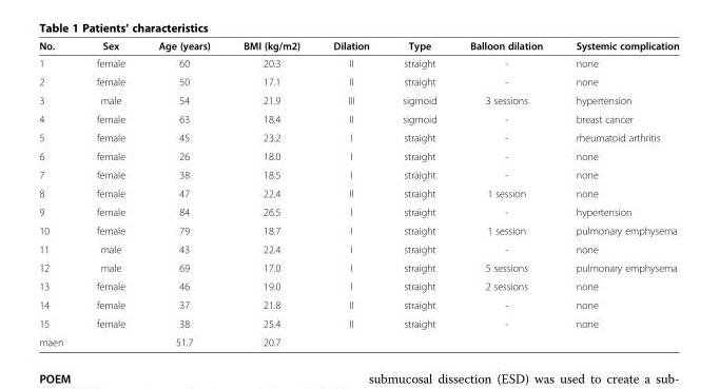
<table><thead><tr><td>No.</td><td>Sex</td><td>Age (years)</td><td>BMI (kg/m2)</td><td>Dilation</td><td>Type</td><td>Balloon dilation</td><td>Systemic complication</td></tr></thead><tbody><tr><td>1</td><td>female</td><td>60</td><td>20.3</td><td>II</td><td>straight</td><td>-</td><td>none</td></tr><tr><td>2</td><td>female</td><td>50</td><td>17.1</td><td>II</td><td>straight</td><td>-</td><td>none</td></tr><tr><td>3</td><td>male</td><td>54</td><td>21.9</td><td>III</td><td>sigmoid</td><td>3 sessions</td><td>hypertension</td></tr><tr><td>4</td><td>female</td><td>63</td><td>18.4</td><td>II</td><td>sigmoid</td><td>-</td><td>breast cancer</td></tr><tr><td>5</td><td>female</td><td>45</td><td>23.2</td><td>I</td><td>straight</td><td>-</td><td>rheumatoid arthritis</td></tr><tr><td>6</td><td>female</td><td>26</td><td>18.0</td><td>I</td><td>straight</td><td>-</td><td>none</td></tr><tr><td>7</td><td>female</td><td>38</td><td>18.5</td><td>I</td><td>straight</td><td>-</td><td>none</td></tr><tr><td>8</td><td>female</td><td>47</td><td>22.4</td><td>II</td><td>straight</td><td>1 session</td><td>none</td></tr><tr><td>9</td><td>female</td><td>84</td><td>26.5</td><td>I</td><td>straight</td><td>-</td><td>hypertension</td></tr><tr><td>10</td><td>female</td><td>79</td><td>18.7</td><td>I</td><td>straight</td><td>1 session</td><td>pulmonary emphysema</td></tr><tr><td>11</td><td>male</td><td>43</td><td>22.4</td><td>I</td><td>straight</td><td>-</td><td>none</td></tr><tr><td>12</td><td>male</td><td>69</td><td>17.0</td><td>I</td><td>straight</td><td>5 sessions</td><td>pulmonary emphysema</td></tr><tr><td>13</td><td>female</td><td>46</td><td>19.0</td><td>I</td><td>straight</td><td>2 sessions</td><td>none</td></tr><tr><td>14</td><td>female</td><td>37</td><td>21.8</td><td>II</td><td>straight</td><td>-</td><td>none</td></tr><tr><td>15</td><td>female</td><td>38</td><td>25.4</td><td>II</td><td>straight</td><td>-</td><td>none</td></tr><tr><td>maen</td><td></td><td>51.7</td><td>20.7</td><td></td><td></td><td></td><td></td></tr></tbody></table>